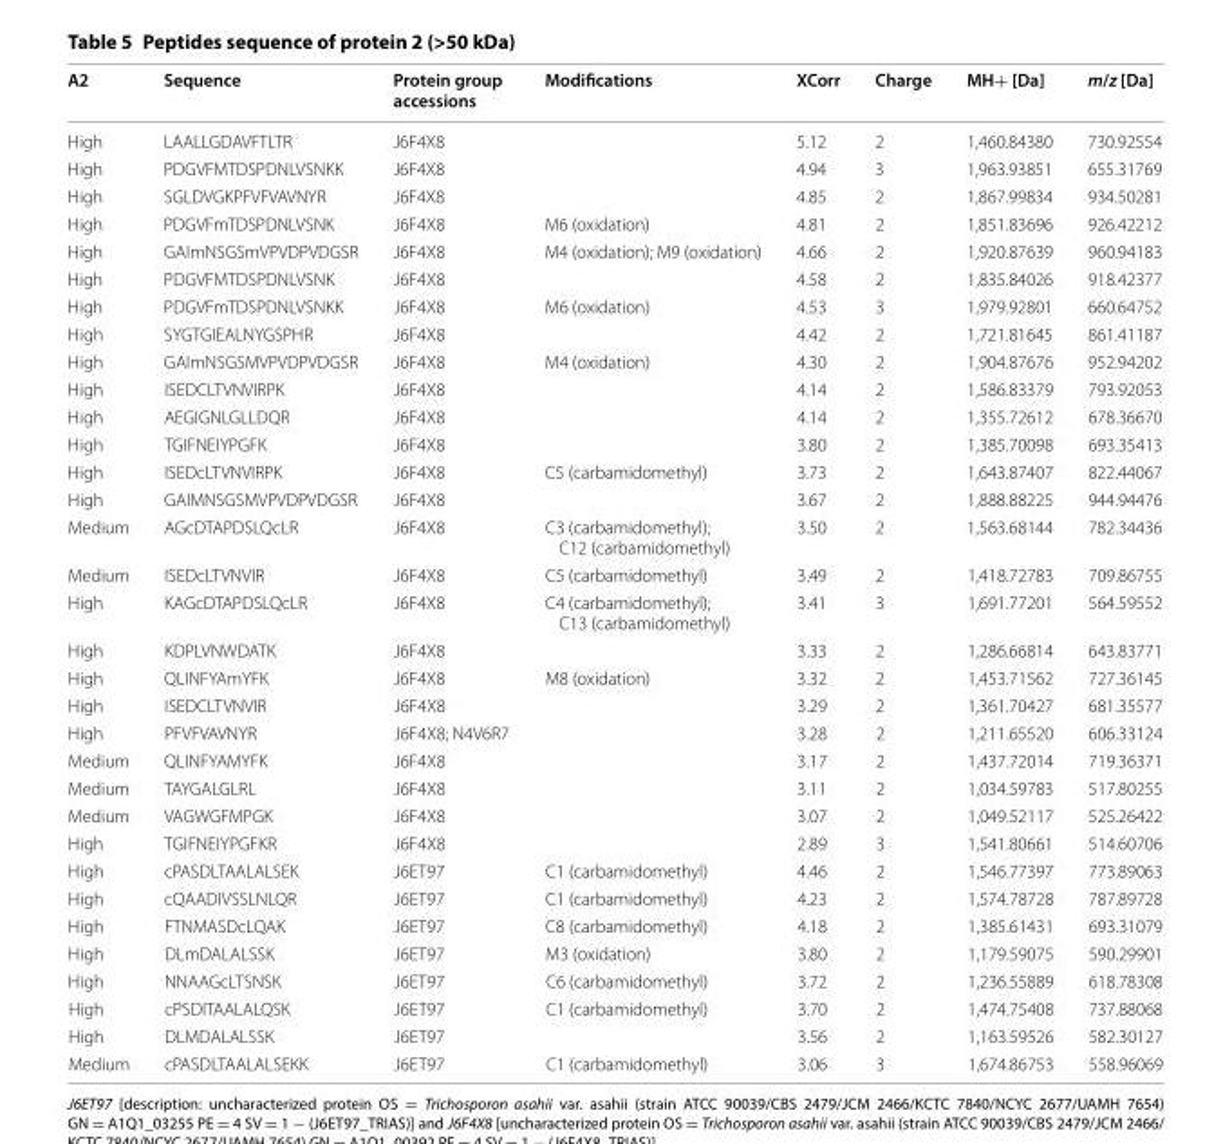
<table><thead><tr><td>A2</td><td>Sequence</td><td>Protein group accessions</td><td>Modifications</td><td>XCorr</td><td>Charge</td><td>MH+ [Da]</td><td>m/z [Da]</td></tr></thead><tbody><tr><td>High</td><td>LAALLGDAVFTLTR</td><td>J6F4X8</td><td></td><td>5.12</td><td>2</td><td>1,460.84380</td><td>730.92554</td></tr><tr><td>High</td><td>PDGVFMTDSPDNLVSNKK</td><td>J6F4X8</td><td></td><td>4.94</td><td>3</td><td>1,963.93851</td><td>655.31769</td></tr><tr><td>High</td><td>SGLDVGKPFVFVAVNYR</td><td>J6F4X8</td><td></td><td>4.85</td><td>2</td><td>1,867.99834</td><td>934.50281</td></tr><tr><td>High</td><td>PDGVFmTDSPDNLVSNK</td><td>J6F4X8</td><td>M6 (oxidation)</td><td>4.81</td><td>2</td><td>1,851.83696</td><td>926.42212</td></tr><tr><td>High</td><td>GAImNSGSmVPVDPVDGSR</td><td>J6F4X8</td><td>M4 (oxidation); M9 (oxidation)</td><td>4.66</td><td>2</td><td>1,920.87639</td><td>960.94183</td></tr><tr><td>High</td><td>PDGVFMTDSPDNLVSNK</td><td>J6F4X8</td><td></td><td>4.58</td><td>2</td><td>1,835.84026</td><td>918.42377</td></tr><tr><td>High</td><td>PDGVFmTDSPDNLVSNKK</td><td>J6F4X8</td><td>M6 (oxidation)</td><td>4.53</td><td>3</td><td>1,979.92801</td><td>660.64752</td></tr><tr><td>High</td><td>SYGTGIEALNYGSPHR</td><td>J6F4X8</td><td></td><td>4.42</td><td>2</td><td>1,721.81645</td><td>861.41187</td></tr><tr><td>High</td><td>GAImNSGSMVPVDPVDGSR</td><td>J6F4X8</td><td>M4 (oxidation)</td><td>4.30</td><td>2</td><td>1,904.87676</td><td>952.94202</td></tr><tr><td>High</td><td>ISEDCLTVNVIRPK</td><td>J6F4X8</td><td></td><td>4.14</td><td>2</td><td>1,586.83379</td><td>793.92053</td></tr><tr><td>High</td><td>AEGIGNLGLLDQR</td><td>J6F4X8</td><td></td><td>4.14</td><td>2</td><td>1,355.72612</td><td>678.36670</td></tr><tr><td>High</td><td>TGIFNEIYPGFK</td><td>J6F4X8</td><td></td><td>3.80</td><td>2</td><td>1,385.70098</td><td>693.35413</td></tr><tr><td>High</td><td>ISEDcLTVNVIRPK</td><td>J6F4X8</td><td>C5 (carbamidomethyl)</td><td>3.73</td><td>2</td><td>1,643.87407</td><td>822.44067</td></tr><tr><td>High</td><td>GAIMNSGSMVPVDPVDGSR</td><td>J6F4X8</td><td></td><td>3.67</td><td>2</td><td>1,888.88225</td><td>944.94476</td></tr><tr><td>Medium</td><td>AGcDTAPDSLQcLR</td><td>J6F4X8</td><td>C3 (carbamidomethyl); C12 (carbamidomethyl)</td><td>3.50</td><td>2</td><td>1,563.68144</td><td>782.34436</td></tr><tr><td>Medium</td><td>ISEDcLTVNVIR</td><td>J6F4X8</td><td>C5 (carbamidomethyl)</td><td>3.49</td><td>2</td><td>1,418.72783</td><td>709.86755</td></tr><tr><td>High</td><td>KAGcDTAPDSLQcLR</td><td>J6F4X8</td><td>C4 (carbamidomethyl); C13 (carbamidomethyl)</td><td>3.41</td><td>3</td><td>1,691.77201</td><td>564.59552</td></tr><tr><td>High</td><td>KDPLVNWDATK</td><td>J6F4X8</td><td></td><td>3.33</td><td>2</td><td>1,286.66814</td><td>643.83771</td></tr><tr><td>High</td><td>QLINFYAmYFK</td><td>J6F4X8</td><td>M8 (oxidation)</td><td>3.32</td><td>2</td><td>1,453.71562</td><td>727.36145</td></tr><tr><td>High</td><td>ISEDCLTVNVIR</td><td>J6F4X8</td><td></td><td>3.29</td><td>2</td><td>1,361.70427</td><td>681.35577</td></tr><tr><td>High</td><td>PFVFVAVNYR</td><td>J6F4X8; N4V6R7</td><td></td><td>3.28</td><td>2</td><td>1,211.65520</td><td>606.33124</td></tr><tr><td>Medium</td><td>QLINFYAMYFK</td><td>J6F4X8</td><td></td><td>3.17</td><td>2</td><td>1,437.72014</td><td>719.36371</td></tr><tr><td>Medium</td><td>TAYGALGLRL</td><td>J6F4X8</td><td></td><td>3.11</td><td>2</td><td>1,034.59783</td><td>517.80255</td></tr><tr><td>Medium</td><td>VAGWGFMPGK</td><td>J6F4X8</td><td></td><td>3.07</td><td>2</td><td>1,049.52117</td><td>525.26422</td></tr><tr><td>High</td><td>TGIFNEIYPGFKR</td><td>J6F4X8</td><td></td><td>2.89</td><td>3</td><td>1,541.80661</td><td>514.60706</td></tr><tr><td>High</td><td>cPASDLTAALALSEK</td><td>J6ET97</td><td>C1 (carbamidomethyl)</td><td>4.46</td><td>2</td><td>1,546.77397</td><td>773.89063</td></tr><tr><td>High</td><td>cQAADIVSSLNLQR</td><td>J6ET97</td><td>C1 (carbamidomethyl)</td><td>4.23</td><td>2</td><td>1,574.78728</td><td>787.89728</td></tr><tr><td>High</td><td>FTNMASDcLQAK</td><td>J6ET97</td><td>C8 (carbamidomethyl)</td><td>4.18</td><td>2</td><td>1,385.61431</td><td>693.31079</td></tr><tr><td>High</td><td>DLmDALALSSK</td><td>J6ET97</td><td>M3 (oxidation)</td><td>3.80</td><td>2</td><td>1,179.59075</td><td>590.29901</td></tr><tr><td>High</td><td>NNAAGcLTSNSK</td><td>J6ET97</td><td>C6 (carbamidomethyl)</td><td>3.72</td><td>2</td><td>1,236.55889</td><td>618.78308</td></tr><tr><td>High</td><td>cPSDITAALALQSK</td><td>J6ET97</td><td>C1 (carbamidomethyl)</td><td>3.70</td><td>2</td><td>1,474.75408</td><td>737.88068</td></tr><tr><td>High</td><td>DLMDALALSSK</td><td>J6ET97</td><td></td><td>3.56</td><td>2</td><td>1,163.59526</td><td>582.30127</td></tr><tr><td>Medium</td><td>cPASDLTAALALSEKK</td><td>J6ET97</td><td>C1 (carbamidomethyl)</td><td>3.06</td><td>3</td><td>1,674.86753</td><td>558.96069</td></tr></tbody></table>